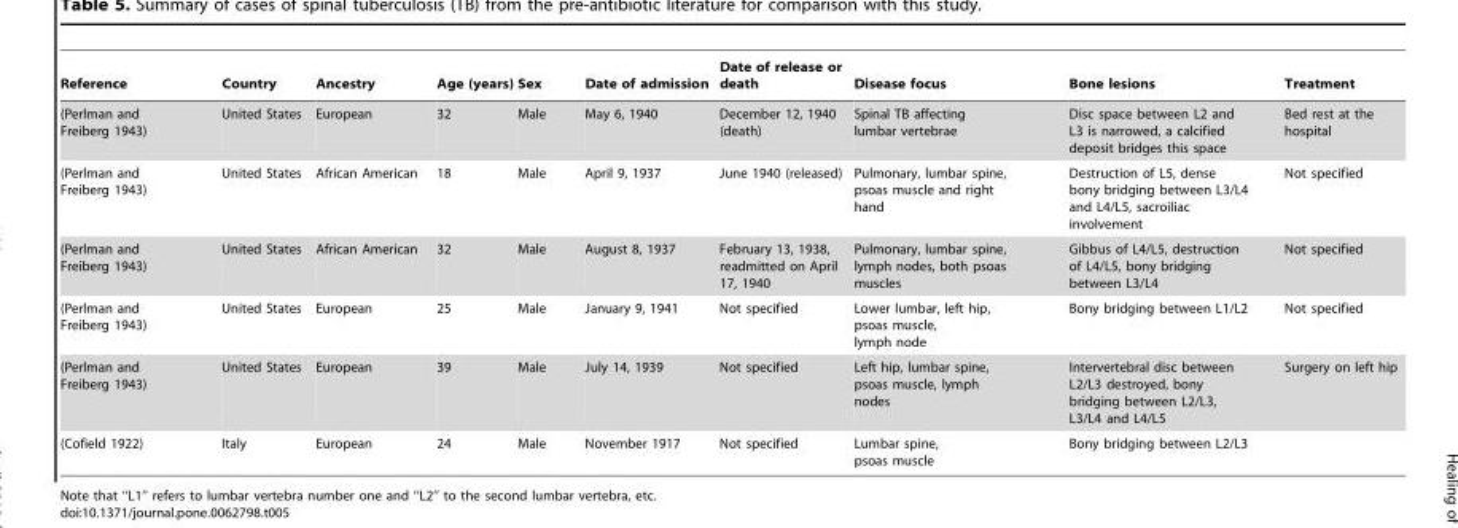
<table><thead><tr><td>Reference</td><td>Country</td><td>Ancestry</td><td>Age (years)</td><td>Sex</td><td>Date of admission</td><td>Date of release or death</td><td>Disease focus</td><td>Bone lesions</td><td>Treatment</td></tr></thead><tbody><tr><td>(Perlman and Freiberg 1943)</td><td>United States</td><td>European</td><td>32</td><td>Male</td><td>May 6, 1940</td><td>December 12, 1940 (death)</td><td>Spinal TB affecting lumbar vertebrae</td><td>Disc space between L2 and L3 is narrowed, a calcified deposit bridges this space</td><td>Bed rest at the hospital</td></tr><tr><td>(Perlman and Freiberg 1943)</td><td>United States</td><td>African American</td><td>18</td><td>Male</td><td>April 9, 1937</td><td>June 1940 (released)</td><td>Pulmonary, lumbar spine, psoas muscle and right hand</td><td>Destruction of L5, dense bony bridging between L3/L4 and L4/L5, sacroiliac involvement</td><td>Not specified</td></tr><tr><td>(Perlman and Freiberg 1943)</td><td>United States</td><td>African American</td><td>32</td><td>Male</td><td>August 8, 1937</td><td>February 13, 1938, readmitted on April 17, 1940</td><td>Pulmonary, lumbar spine, lymph nodes, both psoas muscles</td><td>Gibbus of L4/L5, destruction of L4/L5, bony bridging between L3/L4</td><td>Not specified</td></tr><tr><td>(Perlman and Freiberg 1943)</td><td>United States</td><td>European</td><td>25</td><td>Male</td><td>January 9, 1941</td><td>Not specified</td><td>Lower lumbar, left hip, psoas muscle, lymph node</td><td>Bony bridging between L1/L2</td><td>Not specified</td></tr><tr><td>(Perlman and Freiberg 1943)</td><td>United States</td><td>European</td><td>39</td><td>Male</td><td>July 14, 1939</td><td>Not specified</td><td>Left hip, lumbar spine, psoas muscle, lymph nodes</td><td>Intervertebral disc between L2/L3 destroyed, bony bridging between L2/L3, L3/L4 and L4/L5</td><td>Surgery on left hip</td></tr><tr><td>(Cofield 1922)</td><td>Italy</td><td>European</td><td>24</td><td>Male</td><td>November 1917</td><td>Not specified</td><td>Lumbar spine, psoas muscle</td><td>Bony bridging between L2/L3</td><td></td></tr></tbody></table>